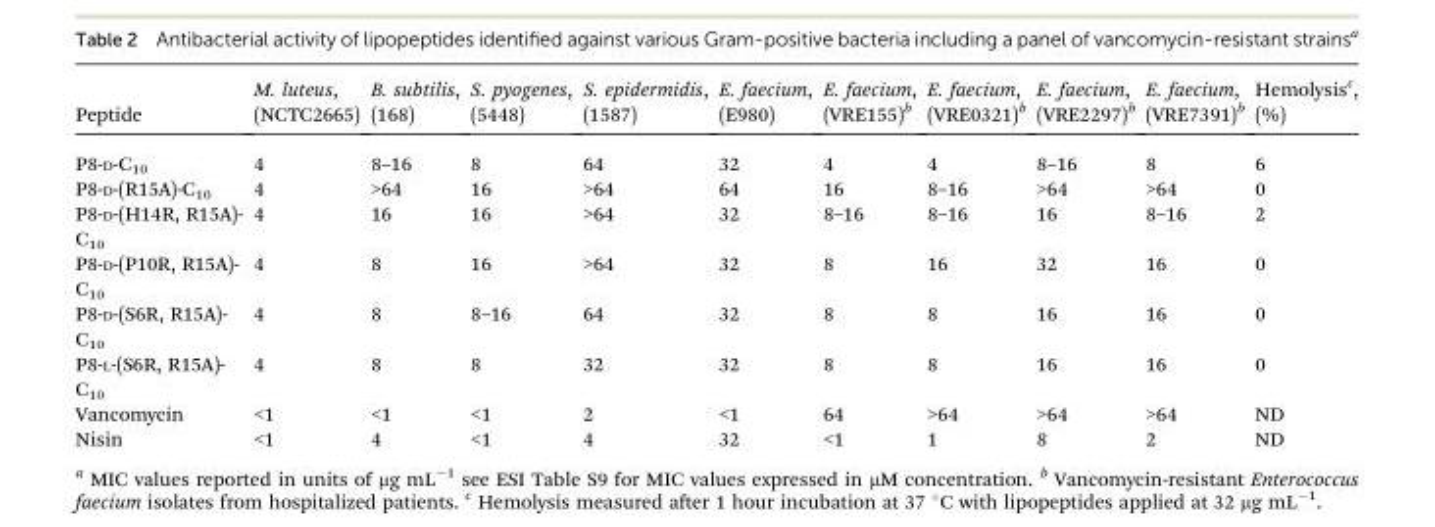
<table><thead><tr><td>Peptide</td><td>M. luteus, (NCTC2665)</td><td>B. subtilis, (168)</td><td>S. pyogenes, (5448)</td><td>S. epidermidis, (1587)</td><td>E. faecium, (E980)</td><td>E. faecium, (VRE155)<sup>b</sup></td><td>E. faecium, (VRE0321)<sup>b</sup></td><td>E. faecium, (VRE2297)<sup>b</sup></td><td>E. faecium, (VRE7391)<sup>b</sup></td><td>Hemolysis<sup>c</sup>, (%)</td></tr></thead><tbody><tr><td>P8-D-C<sub>10</sub></td><td>4</td><td>8–16</td><td>8</td><td>64</td><td>32</td><td>4</td><td>4</td><td>8–16</td><td>8</td><td>6</td></tr><tr><td>P8-D-(R15A)-C<sub>10</sub></td><td>4</td><td>&gt;64</td><td>16</td><td>&gt;64</td><td>64</td><td>16</td><td>8–16</td><td>&gt;64</td><td>&gt;64</td><td>0</td></tr><tr><td>P8-D-(H14R, R15A)- C<sub>10</sub></td><td>4</td><td>16</td><td>16</td><td>&gt;64</td><td>32</td><td>8–16</td><td>8–16</td><td>16</td><td>8–16</td><td>2</td></tr><tr><td>P8-D-(P10R, R15A)- C<sub>10</sub></td><td>4</td><td>8</td><td>16</td><td>&gt;64</td><td>32</td><td>8</td><td>16</td><td>32</td><td>16</td><td>0</td></tr><tr><td>P8-D-(S6R, R15A)- C<sub>10</sub></td><td>4</td><td>8</td><td>8–16</td><td>64</td><td>32</td><td>8</td><td>8</td><td>16</td><td>16</td><td>0</td></tr><tr><td>P8-L-(S6R, R15A)- C<sub>10</sub></td><td>4</td><td>8</td><td>8</td><td>32</td><td>32</td><td>8</td><td>8</td><td>16</td><td>16</td><td>0</td></tr><tr><td>Vancomycin</td><td>&lt;1</td><td>&lt;1</td><td>&lt;1</td><td>2</td><td>&lt;1</td><td>64</td><td>&gt;64</td><td>&gt;64</td><td>&gt;64</td><td>ND</td></tr><tr><td>Nisin</td><td>&lt;1</td><td>4</td><td>&lt;1</td><td>4</td><td>32</td><td>&lt;1</td><td>1</td><td>8</td><td>2</td><td>ND</td></tr></tbody></table>